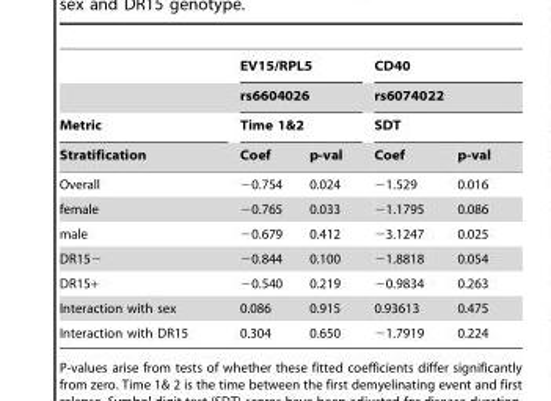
<table><thead><tr><td rowspan="4">Metric Stratification</td><td rowspan="3" colspan="2">EV15/RPL5 rs6604026 Time 1&amp;2</td><td rowspan="3" colspan="2">CD40 rs6074022 SDT</td></tr><tr></tr><tr></tr><tr><td>Coef</td><td>p-val</td><td>Coef</td><td>p-val</td></tr></thead><tbody><tr><td>Overall</td><td>−0.754</td><td>0.024</td><td>−1.529</td><td>0.016</td></tr><tr><td>female</td><td>−0.765</td><td>0.033</td><td>−1.1795</td><td>0.086</td></tr><tr><td>male</td><td>−0.679</td><td>0.412</td><td>−3.1247</td><td>0.025</td></tr><tr><td>DR15−</td><td>−0.844</td><td>0.100</td><td>−1.8818</td><td>0.054</td></tr><tr><td>DR15+</td><td>−0.540</td><td>0.219</td><td>−0.9834</td><td>0.263</td></tr><tr><td>Interaction with sex</td><td>0.086</td><td>0.915</td><td>0.93613</td><td>0.475</td></tr><tr><td>Interaction with DR15</td><td>0.304</td><td>0.650</td><td>−1.7919</td><td>0.224</td></tr></tbody></table>